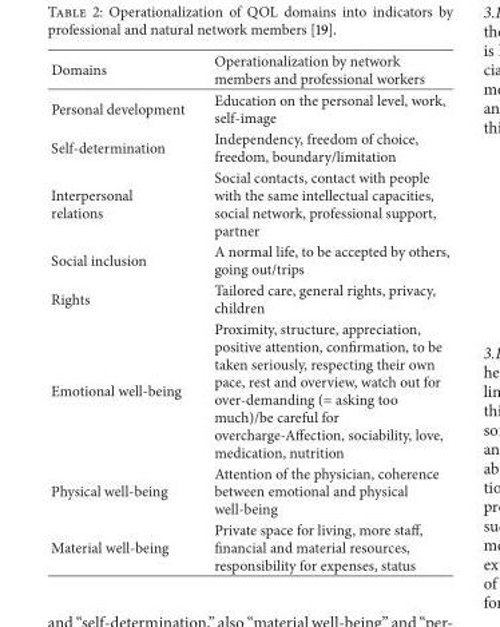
<table><thead><tr><td>Domains</td><td>Operationalization by network members and professional workers</td></tr></thead><tbody><tr><td>Personal development</td><td>Education on the personal level, work, self-image</td></tr><tr><td>Self-determination</td><td>Independency, freedom of choice, freedom, boundary/limitation</td></tr><tr><td>Interpersonal relations</td><td>Social contacts, contact with people with the same intellectual capacities, social network, professional support, partner</td></tr><tr><td>Social inclusion</td><td>A normal life, to be accepted by others, going out/trips</td></tr><tr><td>Rights</td><td>Tailored care, general rights, privacy, children</td></tr><tr><td>Emotional well-being</td><td>Proximity, structure, appreciation, positive attention, confirmation, to be taken seriously, respecting their own pace, rest and overview, watch out for over-demanding (= asking too much)/be careful for overcharge-Affection, sociability, love, medication, nutrition</td></tr><tr><td>Physical well-being</td><td>Attention of the physician, coherence between emotional and physical well-being</td></tr><tr><td>Material well-being</td><td>Private space for living, more staff, financial and material resources, responsibility for expenses, status</td></tr></tbody></table>